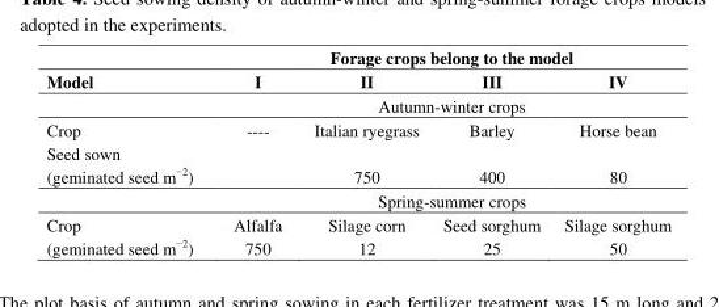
<table><thead><tr><td rowspan="2">Model</td><td colspan="4">Forage crops belong to the model</td></tr><tr><td>I</td><td>II</td><td>III</td><td>IV</td></tr></thead><tbody><tr><td></td><td colspan="4">Autumn-winter crops</td></tr><tr><td>Crop</td><td>----</td><td>Italian ryegrass</td><td>Barley</td><td>Horse bean</td></tr><tr><td rowspan="2">Seed sown (geminated seed m<sup>−2</sup>)</td><td></td><td>750</td><td>400</td><td>80</td></tr><tr><td colspan="4">Spring-summer crops</td></tr><tr><td rowspan="2">Crop (geminated seed m<sup>−2</sup>)</td><td>Alfalfa</td><td>Silage corn</td><td>Seed sorghum</td><td>Silage sorghum</td></tr><tr><td>750</td><td>12</td><td>25</td><td>50</td></tr></tbody></table>